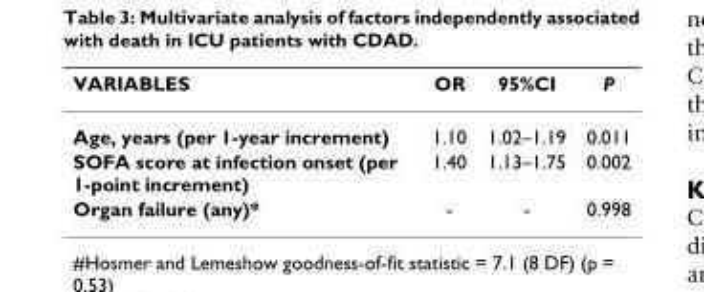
<table><thead><tr><td>VARIABLES</td><td>OR</td><td>95%CI</td><td>P</td></tr></thead><tbody><tr><td>Age, years (per 1-year increment)</td><td>1.10</td><td>1.02–1.19</td><td>0.011</td></tr><tr><td>SOFA score at infection onset (per 1-point increment)</td><td>1.40</td><td>1.13–1.75</td><td>0.002</td></tr><tr><td>Organ failure (any)*</td><td>-</td><td>-</td><td>0.998</td></tr></tbody></table>